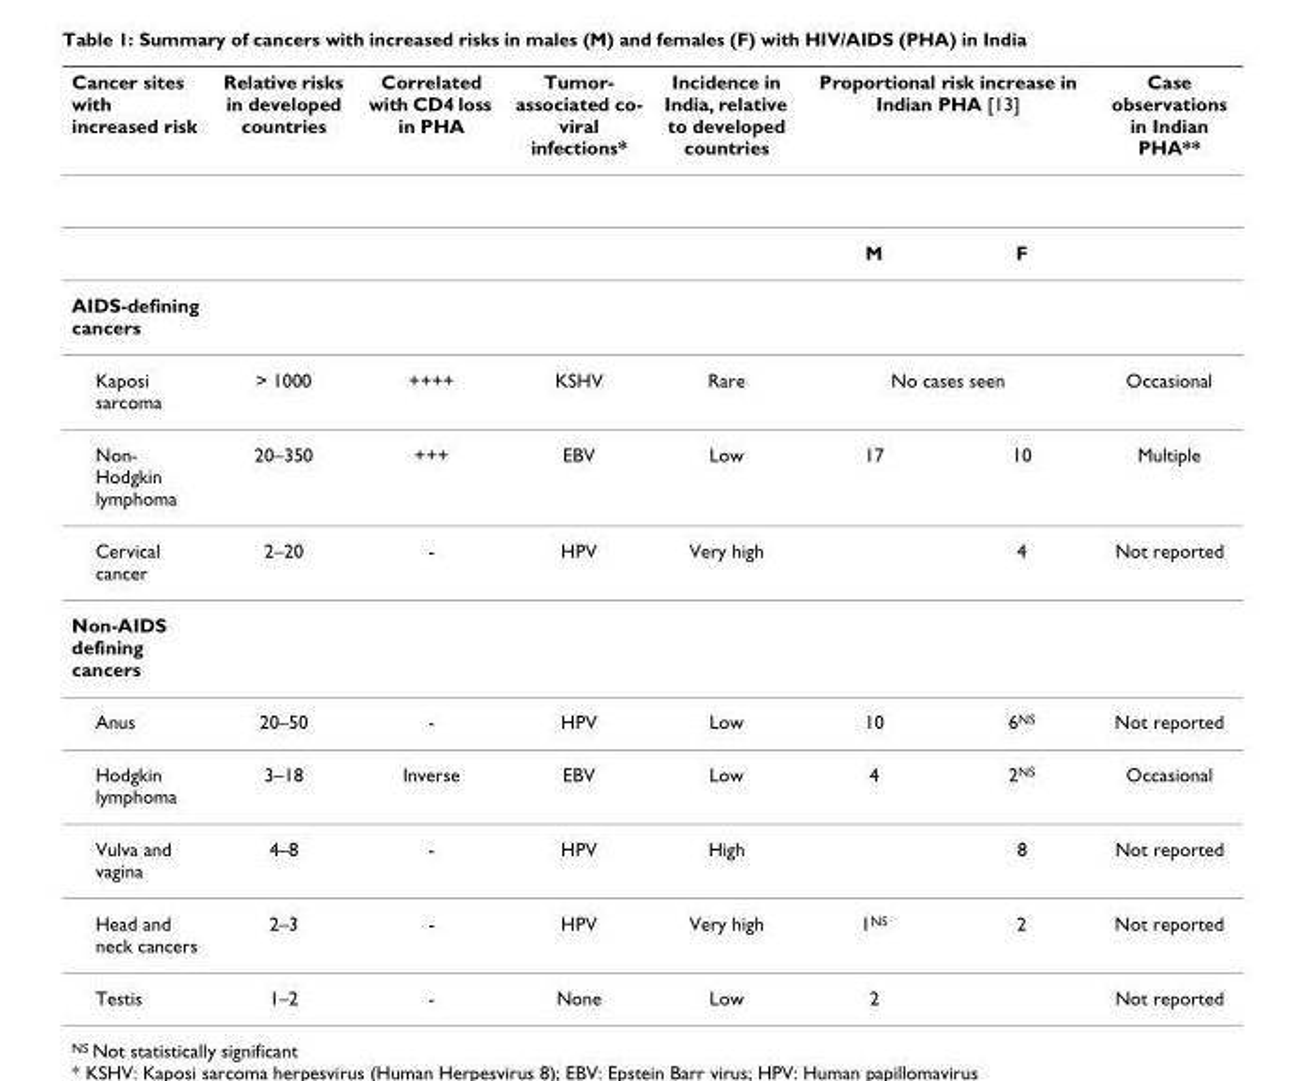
<table><thead><tr><td rowspan="2">Cancer sites with increased risk</td><td rowspan="2">Relative risks in developed countries</td><td rowspan="2">Correlated with CD4 loss in PHA</td><td rowspan="2">Tumor- associated co- viral infections*</td><td rowspan="2">Incidence in India, relative to developed countries</td><td colspan="2">Proportional risk increase in Indian PHA [13]</td><td rowspan="2">Case observations in Indian PHA**</td></tr><tr><td>M</td><td>F</td></tr></thead><tbody><tr><td colspan="8">AIDS-defining cancers</td></tr><tr><td>Kaposi sarcoma</td><td>&gt; 1000</td><td>++++</td><td>KSHV</td><td>Rare</td><td colspan="2">No cases seen</td><td>Occasional</td></tr><tr><td>Non- Hodgkin lymphoma</td><td>20–350</td><td>+++</td><td>EBV</td><td>Low</td><td>17</td><td>10</td><td>Multiple</td></tr><tr><td>Cervical cancer</td><td>2–20</td><td>-</td><td>HPV</td><td>Very high</td><td></td><td>4</td><td>Not reported</td></tr><tr><td colspan="8">Non-AIDS defining cancers</td></tr><tr><td>Anus</td><td>20–50</td><td>-</td><td>HPV</td><td>Low</td><td>10</td><td>6<sup>NS</sup></td><td>Not reported</td></tr><tr><td>Hodgkin lymphoma</td><td>3–18</td><td>Inverse</td><td>EBV</td><td>Low</td><td>4</td><td>2<sup>NS</sup></td><td>Occasional</td></tr><tr><td>Vulva and vagina</td><td>4–8</td><td>-</td><td>HPV</td><td>High</td><td></td><td>8</td><td>Not reported</td></tr><tr><td>Head and neck cancers</td><td>2–3</td><td>-</td><td>HPV</td><td>Very high</td><td>1<sup>NS</sup></td><td>2</td><td>Not reported</td></tr><tr><td>Testis</td><td>1–2</td><td>-</td><td>None</td><td>Low</td><td>2</td><td></td><td>Not reported</td></tr></tbody></table>